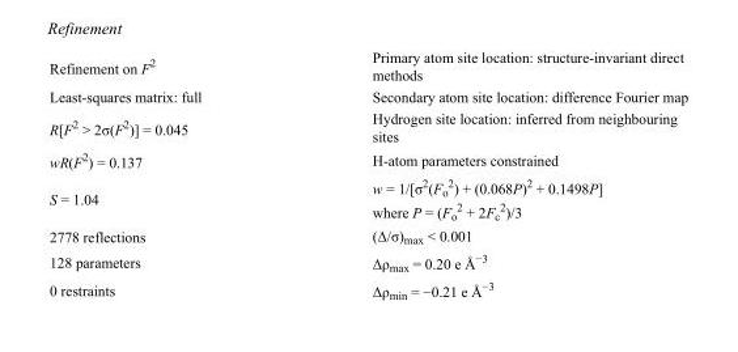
<table><tbody><tr><td>Refinement on F<sup>2</sup></td><td>Primary atom site location: structure-invariant direct methods</td></tr><tr><td>Least-squares matrix: full</td><td>Secondary atom site location: difference Fourier map</td></tr><tr><td>R[F<sup>2</sup> &gt; 2σ(F<sup>2</sup>)] = 0.045</td><td>Hydrogen site location: inferred from neighbouring sites</td></tr><tr><td>wR(F<sup>2</sup>) = 0.137</td><td>H-atom parameters constrained</td></tr><tr><td>S = 1.04</td><td>w = 1/[σ<sup>2</sup>(F<sub>o</sub> <sup>2</sup>) + (0.068P)<sup>2</sup> + 0.1498P] where P = (F<sub>o</sub> <sup>2</sup> + 2F<sub>c</sub> <sup>2</sup>)/3</td></tr><tr><td>2778 reflections</td><td>(Δ/σ)<sub>max</sub> &lt; 0.001</td></tr><tr><td>128 parameters</td><td>Δρ<sub>max</sub> = 0.20 e Å<sup>−3</sup></td></tr><tr><td>0 restraints</td><td>Δρ<sub>min</sub> = −0.21 e Å<sup>−3</sup></td></tr></tbody></table>